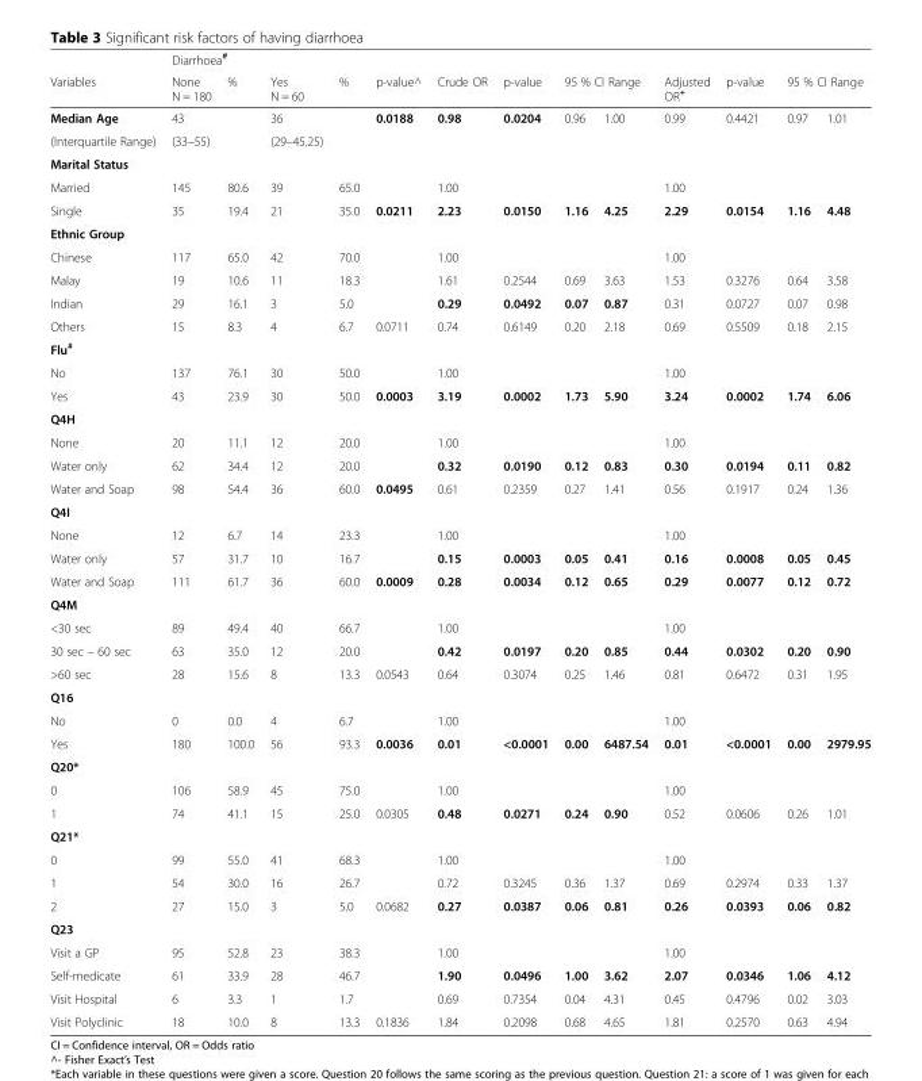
<table><thead><tr><td rowspan="2">Variables</td><td colspan="4">Diarrhoea<sup>#</sup></td><td rowspan="2">p-value^</td><td rowspan="2">Crude OR</td><td rowspan="2">p-value</td><td></td><td></td><td rowspan="2">Adjusted OR<sup>+</sup></td><td rowspan="2">p-value</td><td></td><td></td></tr><tr><td>None N = 180</td><td>%</td><td>Yes N = 60</td><td>%</td><td colspan="2">95 % CI Range</td><td colspan="2">95 % CI Range</td></tr></thead><tbody><tr><td>Median Age</td><td>43</td><td></td><td>36</td><td></td><td>0.0188</td><td>0.98</td><td>0.0204</td><td>0.96</td><td>1.00</td><td>0.99</td><td>0.4421</td><td>0.97</td><td>1.01</td></tr><tr><td>(Interquartile Range)</td><td>(33–55)</td><td></td><td>(29–45.25)</td><td></td><td></td><td></td><td></td><td></td><td></td><td></td><td></td><td></td><td></td></tr><tr><td colspan="14">Marital Status</td></tr><tr><td>Married</td><td>145</td><td>80.6</td><td>39</td><td>65.0</td><td></td><td>1.00</td><td></td><td></td><td></td><td>1.00</td><td></td><td></td><td></td></tr><tr><td>Single</td><td>35</td><td>19.4</td><td>21</td><td>35.0</td><td>0.0211</td><td>2.23</td><td>0.0150</td><td>1.16</td><td>4.25</td><td>2.29</td><td>0.0154</td><td>1.16</td><td>4.48</td></tr><tr><td colspan="14">Ethnic Group</td></tr><tr><td>Chinese</td><td>117</td><td>65.0</td><td>42</td><td>70.0</td><td></td><td>1.00</td><td></td><td></td><td></td><td>1.00</td><td></td><td></td><td></td></tr><tr><td>Malay</td><td>19</td><td>10.6</td><td>11</td><td>18.3</td><td></td><td>1.61</td><td>0.2544</td><td>0.69</td><td>3.63</td><td>1.53</td><td>0.3276</td><td>0.64</td><td>3.58</td></tr><tr><td>Indian</td><td>29</td><td>16.1</td><td>3</td><td>5.0</td><td></td><td>0.29</td><td>0.0492</td><td>0.07</td><td>0.87</td><td>0.31</td><td>0.0727</td><td>0.07</td><td>0.98</td></tr><tr><td>Others</td><td>15</td><td>8.3</td><td>4</td><td>6.7</td><td>0.0711</td><td>0.74</td><td>0.6149</td><td>0.20</td><td>2.18</td><td>0.69</td><td>0.5509</td><td>0.18</td><td>2.15</td></tr><tr><td colspan="14">Flu<sup>#</sup></td></tr><tr><td>No</td><td>137</td><td>76.1</td><td>30</td><td>50.0</td><td></td><td>1.00</td><td></td><td></td><td></td><td>1.00</td><td></td><td></td><td></td></tr><tr><td>Yes</td><td>43</td><td>23.9</td><td>30</td><td>50.0</td><td>0.0003</td><td>3.19</td><td>0.0002</td><td>1.73</td><td>5.90</td><td>3.24</td><td>0.0002</td><td>1.74</td><td>6.06</td></tr><tr><td colspan="14">Q4H</td></tr><tr><td>None</td><td>20</td><td>11.1</td><td>12</td><td>20.0</td><td></td><td>1.00</td><td></td><td></td><td></td><td>1.00</td><td></td><td></td><td></td></tr><tr><td>Water only</td><td>62</td><td>34.4</td><td>12</td><td>20.0</td><td></td><td>0.32</td><td>0.0190</td><td>0.12</td><td>0.83</td><td>0.30</td><td>0.0194</td><td>0.11</td><td>0.82</td></tr><tr><td>Water and Soap</td><td>98</td><td>54.4</td><td>36</td><td>60.0</td><td>0.0495</td><td>0.61</td><td>0.2359</td><td>0.27</td><td>1.41</td><td>0.56</td><td>0.1917</td><td>0.24</td><td>1.36</td></tr><tr><td colspan="14">Q4I</td></tr><tr><td>None</td><td>12</td><td>6.7</td><td>14</td><td>23.3</td><td></td><td>1.00</td><td></td><td></td><td></td><td>1.00</td><td></td><td></td><td></td></tr><tr><td>Water only</td><td>57</td><td>31.7</td><td>10</td><td>16.7</td><td></td><td>0.15</td><td>0.0003</td><td>0.05</td><td>0.41</td><td>0.16</td><td>0.0008</td><td>0.05</td><td>0.45</td></tr><tr><td>Water and Soap</td><td>111</td><td>61.7</td><td>36</td><td>60.0</td><td>0.0009</td><td>0.28</td><td>0.0034</td><td>0.12</td><td>0.65</td><td>0.29</td><td>0.0077</td><td>0.12</td><td>0.72</td></tr><tr><td colspan="14">Q4M</td></tr><tr><td>&lt;30 sec</td><td>89</td><td>49.4</td><td>40</td><td>66.7</td><td></td><td>1.00</td><td></td><td></td><td></td><td>1.00</td><td></td><td></td><td></td></tr><tr><td>30 sec – 60 sec</td><td>63</td><td>35.0</td><td>12</td><td>20.0</td><td></td><td>0.42</td><td>0.0197</td><td>0.20</td><td>0.85</td><td>0.44</td><td>0.0302</td><td>0.20</td><td>0.90</td></tr><tr><td>&gt;60 sec</td><td>28</td><td>15.6</td><td>8</td><td>13.3</td><td>0.0543</td><td>0.64</td><td>0.3074</td><td>0.25</td><td>1.46</td><td>0.81</td><td>0.6472</td><td>0.31</td><td>1.95</td></tr><tr><td colspan="14">Q16</td></tr><tr><td>No</td><td>0</td><td>0.0</td><td>4</td><td>6.7</td><td></td><td>1.00</td><td></td><td></td><td></td><td>1.00</td><td></td><td></td><td></td></tr><tr><td>Yes</td><td>180</td><td>100.0</td><td>56</td><td>93.3</td><td>0.0036</td><td>0.01</td><td>&lt;0.0001</td><td>0.00</td><td>6487.54</td><td>0.01</td><td>&lt;0.0001</td><td>0.00</td><td>2979.95</td></tr><tr><td colspan="14">Q20*</td></tr><tr><td>0</td><td>106</td><td>58.9</td><td>45</td><td>75.0</td><td></td><td>1.00</td><td></td><td></td><td></td><td>1.00</td><td></td><td></td><td></td></tr><tr><td>1</td><td>74</td><td>41.1</td><td>15</td><td>25.0</td><td>0.0305</td><td>0.48</td><td>0.0271</td><td>0.24</td><td>0.90</td><td>0.52</td><td>0.0606</td><td>0.26</td><td>1.01</td></tr><tr><td colspan="14">Q21*</td></tr><tr><td>0</td><td>99</td><td>55.0</td><td>41</td><td>68.3</td><td></td><td>1.00</td><td></td><td></td><td></td><td>1.00</td><td></td><td></td><td></td></tr><tr><td>1</td><td>54</td><td>30.0</td><td>16</td><td>26.7</td><td></td><td>0.72</td><td>0.3245</td><td>0.36</td><td>1.37</td><td>0.69</td><td>0.2974</td><td>0.33</td><td>1.37</td></tr><tr><td>2</td><td>27</td><td>15.0</td><td>3</td><td>5.0</td><td>0.0682</td><td>0.27</td><td>0.0387</td><td>0.06</td><td>0.81</td><td>0.26</td><td>0.0393</td><td>0.06</td><td>0.82</td></tr><tr><td colspan="14">Q23</td></tr><tr><td>Visit a GP</td><td>95</td><td>52.8</td><td>23</td><td>38.3</td><td></td><td>1.00</td><td></td><td></td><td></td><td>1.00</td><td></td><td></td><td></td></tr><tr><td>Self-medicate</td><td>61</td><td>33.9</td><td>28</td><td>46.7</td><td></td><td>1.90</td><td>0.0496</td><td>1.00</td><td>3.62</td><td>2.07</td><td>0.0346</td><td>1.06</td><td>4.12</td></tr><tr><td>Visit Hospital</td><td>6</td><td>3.3</td><td>1</td><td>1.7</td><td></td><td>0.69</td><td>0.7354</td><td>0.04</td><td>4.31</td><td>0.45</td><td>0.4796</td><td>0.02</td><td>3.03</td></tr><tr><td>Visit Polyclinic</td><td>18</td><td>10.0</td><td>8</td><td>13.3</td><td>0.1836</td><td>1.84</td><td>0.2098</td><td>0.68</td><td>4.65</td><td>1.81</td><td>0.2570</td><td>0.63</td><td>4.94</td></tr></tbody></table>